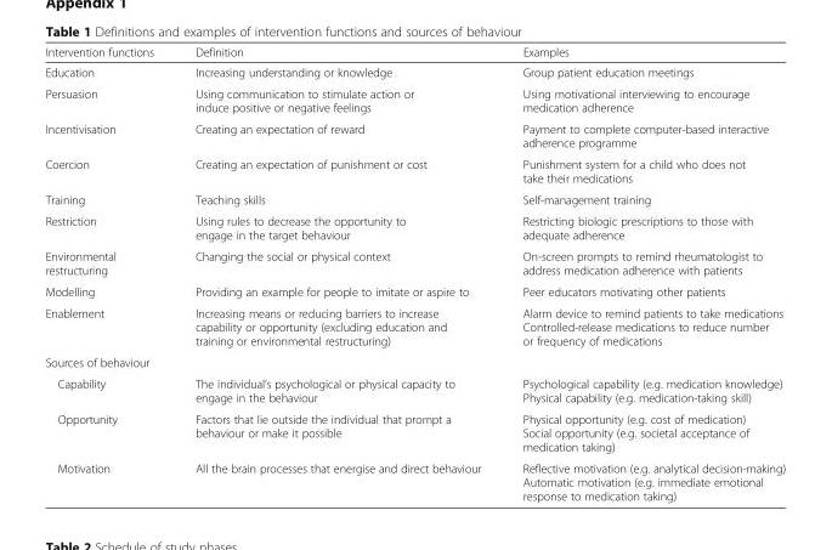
<table><thead><tr><td>Intervention functions</td><td>Definition</td><td>Examples</td></tr></thead><tbody><tr><td>Education</td><td>Increasing understanding or knowledge</td><td>Group patient education meetings</td></tr><tr><td>Persuasion</td><td>Using communication to stimulate action or induce positive or negative feelings</td><td>Using motivational interviewing to encourage medication adherence</td></tr><tr><td>Incentivisation</td><td>Creating an expectation of reward</td><td>Payment to complete computer-based interactive adherence programme</td></tr><tr><td>Coercion</td><td>Creating an expectation of punishment or cost</td><td>Punishment system for a child who does not take their medications</td></tr><tr><td>Training</td><td>Teaching skills</td><td>Self-management training</td></tr><tr><td>Restriction</td><td>Using rules to decrease the opportunity to engage in the target behaviour</td><td>Restricting biologic prescriptions to those with adequate adherence</td></tr><tr><td>Environmental restructuring</td><td>Changing the social or physical context</td><td>On-screen prompts to remind rheumatologist to address medication adherence with patients</td></tr><tr><td>Modelling</td><td>Providing an example for people to imitate or aspire to</td><td>Peer educators motivating other patients</td></tr><tr><td>Enablement</td><td>Increasing means or reducing barriers to increase capability or opportunity (excluding education and training or environmental restructuring)</td><td>Alarm device to remind patients to take medications Controlled-release medications to reduce number or frequency of medications</td></tr><tr><td colspan="3">Sources of behaviour</td></tr><tr><td>Capability</td><td>The individual’s psychological or physical capacity to engage in the behaviour</td><td>Psychological capability (e.g. medication knowledge) Physical capability (e.g. medication-taking skill)</td></tr><tr><td>Opportunity</td><td>Factors that lie outside the individual that prompt a behaviour or make it possible</td><td>Physical opportunity (e.g. cost of medication) Social opportunity (e.g. societal acceptance of medication taking)</td></tr><tr><td>Motivation</td><td>All the brain processes that energise and direct behaviour</td><td>Reflective motivation (e.g. analytical decision-making) Automatic motivation (e.g. immediate emotional response to medication taking)</td></tr></tbody></table>